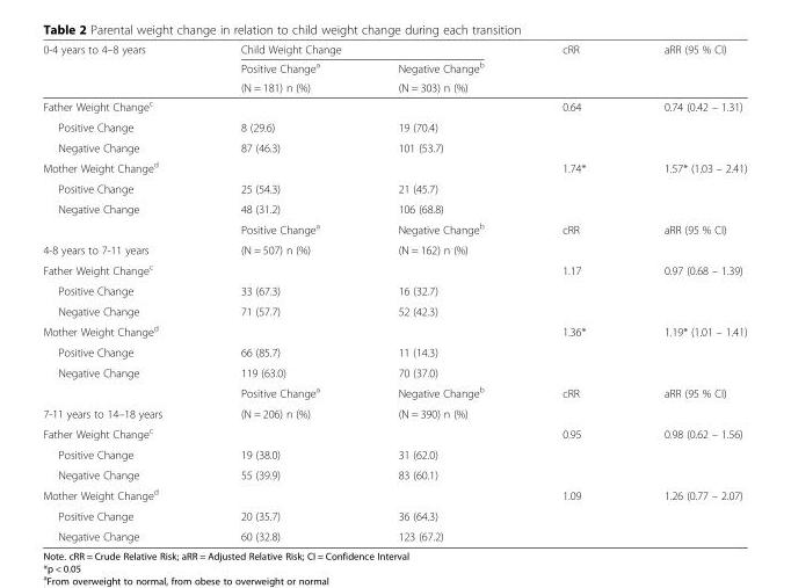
<table><thead><tr><td rowspan="3">0-4 years to 4–8 years</td><td colspan="2">Child Weight Change</td><td rowspan="3">cRR</td><td rowspan="3">aRR (95 % CI)</td></tr><tr><td rowspan="2">Positive Changea (N = 181) n (%)</td><td rowspan="2">Negative Changeb (N = 303) n (%)</td></tr><tr></tr></thead><tbody><tr><td colspan="3">Father Weight Change<sup>c</sup></td><td rowspan="3">0.64</td><td rowspan="3">0.74 (0.42 – 1.31)</td></tr><tr><td>Positive Change</td><td>8 (29.6)</td><td>19 (70.4)</td></tr><tr><td>Negative Change</td><td>87 (46.3)</td><td>101 (53.7)</td></tr><tr><td colspan="3">Mother Weight Change<sup>d</sup></td><td rowspan="3">1.74*</td><td rowspan="3">1.57* (1.03 – 2.41)</td></tr><tr><td>Positive Change</td><td>25 (54.3)</td><td>21 (45.7)</td></tr><tr><td rowspan="2">Negative Change</td><td>48 (31.2)</td><td>106 (68.8)</td></tr><tr><td>Positive Change<sup>a</sup></td><td>Negative Change<sup>b</sup></td><td>cRR</td><td>aRR (95 % CI)</td></tr><tr><td>4-8 years to 7-11 years</td><td>(N = 507) n (%)</td><td>(N = 162) n (%)</td><td></td><td></td></tr><tr><td colspan="3">Father Weight Change<sup>c</sup></td><td rowspan="3">1.17</td><td rowspan="3">0.97 (0.68 – 1.39)</td></tr><tr><td>Positive Change</td><td>33 (67.3)</td><td>16 (32.7)</td></tr><tr><td>Negative Change</td><td>71 (57.7)</td><td>52 (42.3)</td></tr><tr><td colspan="3">Mother Weight Change<sup>d</sup></td><td rowspan="3">1.36*</td><td rowspan="3">1.19* (1.01 – 1.41)</td></tr><tr><td>Positive Change</td><td>66 (85.7)</td><td>11 (14.3)</td></tr><tr><td rowspan="2">Negative Change</td><td>119 (63.0)</td><td>70 (37.0)</td></tr><tr><td>Positive Change<sup>a</sup></td><td>Negative Change<sup>b</sup></td><td rowspan="2">cRR</td><td rowspan="2">aRR (95 % CI)</td></tr><tr><td>7-11 years to 14–18 years</td><td>(N = 206) n (%)</td><td>(N = 390) n (%)</td></tr><tr><td colspan="3">Father Weight Change<sup>c</sup></td><td rowspan="3">0.95</td><td rowspan="3">0.98 (0.62 – 1.56)</td></tr><tr><td>Positive Change</td><td>19 (38.0)</td><td>31 (62.0)</td></tr><tr><td>Negative Change</td><td>55 (39.9)</td><td>83 (60.1)</td></tr><tr><td colspan="3">Mother Weight Change<sup>d</sup></td><td rowspan="3">1.09</td><td rowspan="3">1.26 (0.77 – 2.07)</td></tr><tr><td>Positive Change</td><td>20 (35.7)</td><td>36 (64.3)</td></tr><tr><td>Negative Change</td><td>60 (32.8)</td><td>123 (67.2)</td></tr></tbody></table>